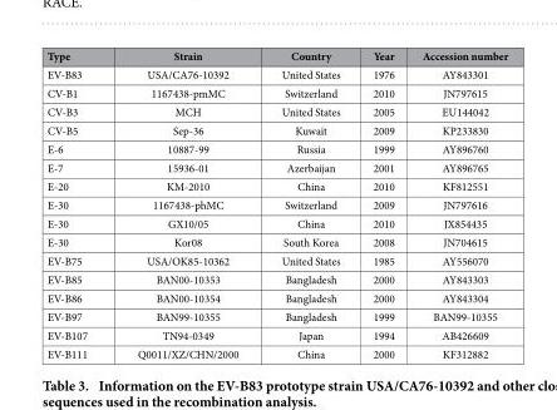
<table><thead><tr><td>Type</td><td>Strain</td><td>Country</td><td>Year</td><td>Accession number</td></tr></thead><tbody><tr><td>EV-B83</td><td>USA/CA76-10392</td><td>United States</td><td>1976</td><td>AY843301</td></tr><tr><td>CV-B1</td><td>1167438-pmMC</td><td>Switzerland</td><td>2010</td><td>JN797615</td></tr><tr><td>CV-B3</td><td>MCH</td><td>United States</td><td>2005</td><td>EU144042</td></tr><tr><td>CV-B5</td><td>Sep-36</td><td>Kuwait</td><td>2009</td><td>KP233830</td></tr><tr><td>E-6</td><td>10887-99</td><td>Russia</td><td>1999</td><td>AY896760</td></tr><tr><td>E-7</td><td>15936-01</td><td>Azerbaijan</td><td>2001</td><td>AY896765</td></tr><tr><td>E-20</td><td>KM-2010</td><td>China</td><td>2010</td><td>KF812551</td></tr><tr><td>E-30</td><td>1167438-phMC</td><td>Switzerland</td><td>2009</td><td>JN797616</td></tr><tr><td>E-30</td><td>GX10/05</td><td>China</td><td>2010</td><td>JX854435</td></tr><tr><td>E-30</td><td>Kor08</td><td>South Korea</td><td>2008</td><td>JN704615</td></tr><tr><td>EV-B75</td><td>USA/OK85-10362</td><td>United States</td><td>1985</td><td>AY556070</td></tr><tr><td>EV-B85</td><td>BAN00-10353</td><td>Bangladesh</td><td>2000</td><td>AY843303</td></tr><tr><td>EV-B86</td><td>BAN00-10354</td><td>Bangladesh</td><td>2000</td><td>AY843304</td></tr><tr><td>EV-B97</td><td>BAN99-10355</td><td>Bangladesh</td><td>1999</td><td>BAN99-10355</td></tr><tr><td>EV-B107</td><td>TN94-0349</td><td>Japan</td><td>1994</td><td>AB426609</td></tr><tr><td>EV-B111</td><td>Q0011/XZ/CHN/2000</td><td>China</td><td>2000</td><td>KF312882</td></tr></tbody></table>